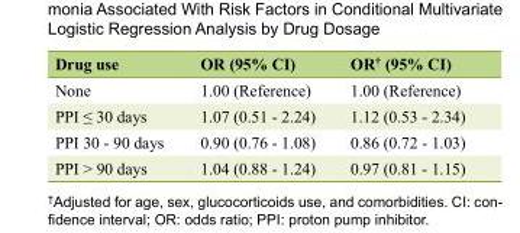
<table><thead><tr><td>Drug use</td><td>OR (95% CI)</td><td>OR<sup>†</sup> (95% CI)</td></tr></thead><tbody><tr><td>None</td><td>1.00 (Reference)</td><td>1.00 (Reference)</td></tr><tr><td>PPI ≤ 30 days</td><td>1.07 (0.51 - 2.24)</td><td>1.12 (0.53 - 2.34)</td></tr><tr><td>PPI 30 - 90 days</td><td>0.90 (0.76 - 1.08)</td><td>0.86 (0.72 - 1.03)</td></tr><tr><td>PPI &gt; 90 days</td><td>1.04 (0.88 - 1.24)</td><td>0.97 (0.81 - 1.15)</td></tr></tbody></table>